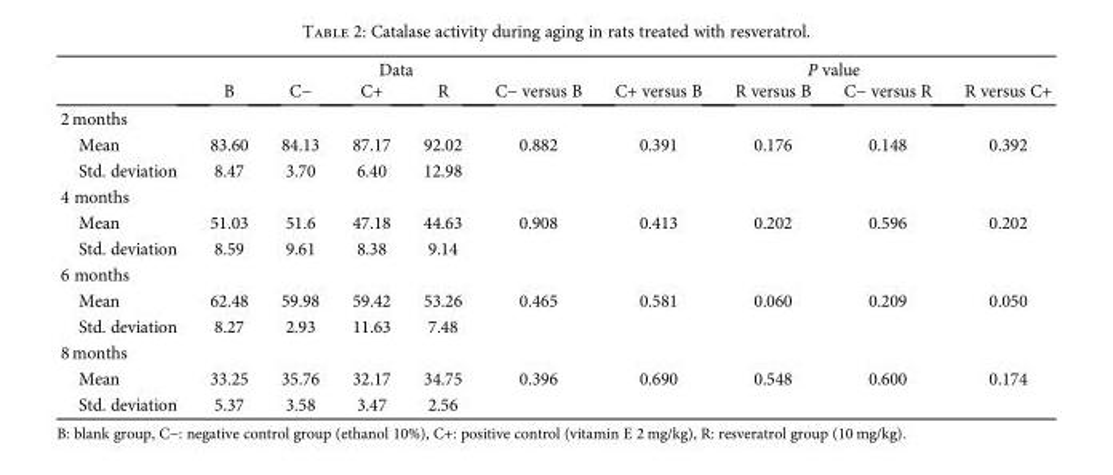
<table><thead><tr><td rowspan="2"></td><td colspan="5">Data</td><td colspan="4">P value</td></tr><tr><td>B</td><td>C−</td><td>C+</td><td>R</td><td>C− versus B</td><td>C+ versus B</td><td>R versus B</td><td>C− versus R</td><td>R versus C+</td></tr></thead><tbody><tr><td colspan="10">2 months</td></tr><tr><td>Mean</td><td>83.60</td><td>84.13</td><td>87.17</td><td>92.02</td><td>0.882</td><td>0.391</td><td>0.176</td><td>0.148</td><td>0.392</td></tr><tr><td>Std. deviation</td><td>8.47</td><td>3.70</td><td>6.40</td><td>12.98</td><td></td><td></td><td></td><td></td><td></td></tr><tr><td colspan="10">4 months</td></tr><tr><td>Mean</td><td>51.03</td><td>51.6</td><td>47.18</td><td>44.63</td><td>0.908</td><td>0.413</td><td>0.202</td><td>0.596</td><td>0.202</td></tr><tr><td>Std. deviation</td><td>8.59</td><td>9.61</td><td>8.38</td><td>9.14</td><td></td><td></td><td></td><td></td><td></td></tr><tr><td colspan="10">6 months</td></tr><tr><td>Mean</td><td>62.48</td><td>59.98</td><td>59.42</td><td>53.26</td><td>0.465</td><td>0.581</td><td>0.060</td><td>0.209</td><td>0.050</td></tr><tr><td>Std. deviation</td><td>8.27</td><td>2.93</td><td>11.63</td><td>7.48</td><td></td><td></td><td></td><td></td><td></td></tr><tr><td colspan="10">8 months</td></tr><tr><td>Mean</td><td>33.25</td><td>35.76</td><td>32.17</td><td>34.75</td><td>0.396</td><td>0.690</td><td>0.548</td><td>0.600</td><td>0.174</td></tr><tr><td>Std. deviation</td><td>5.37</td><td>3.58</td><td>3.47</td><td>2.56</td><td></td><td></td><td></td><td></td><td></td></tr></tbody></table>